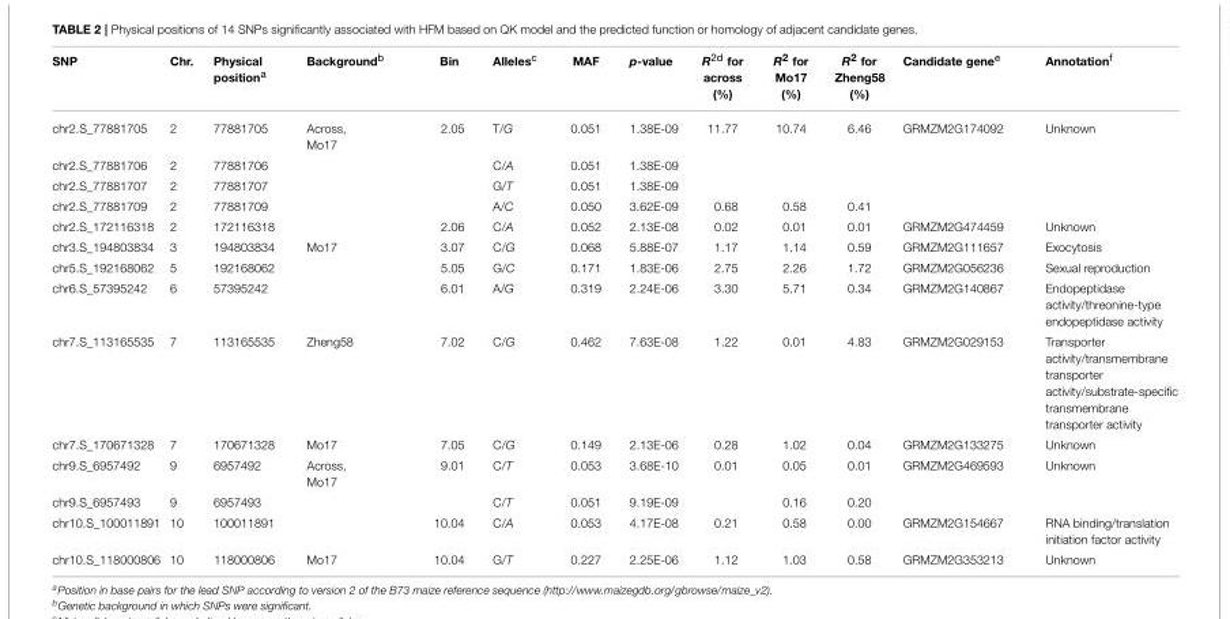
<table><thead><tr><td>SNP</td><td>Chr.</td><td>Physical position<sup>a</sup></td><td>Background<sup>b</sup></td><td>Bin</td><td>Alleles<sup>c</sup></td><td>MAF</td><td>p-value</td><td>R<sup>2d</sup> for across (%)</td><td>R<sup>2</sup> for Mo17 (%)</td><td>R<sup>2</sup> for Zheng58 (%)</td><td>Candidate gene<sup>e</sup></td><td>Annotation<sup>f</sup></td></tr></thead><tbody><tr><td>chr2.S_77881705</td><td>2</td><td>77881705</td><td>Across, Mo17</td><td>2.05</td><td>T/G</td><td>0.051</td><td>1.38E-09</td><td>11.77</td><td>10.74</td><td>6.46</td><td>GRMZM2G174092</td><td>Unknown</td></tr><tr><td>chr2.S_77881706</td><td>2</td><td>77881706</td><td></td><td></td><td>C/A</td><td>0.051</td><td>1.38E-09</td><td></td><td></td><td></td><td></td><td></td></tr><tr><td>chr2.S_77881707</td><td>2</td><td>77881707</td><td></td><td></td><td>G/T</td><td>0.051</td><td>1.38E-09</td><td></td><td></td><td></td><td></td><td></td></tr><tr><td>chr2.S_77881709</td><td>2</td><td>77881709</td><td></td><td></td><td>A/C</td><td>0.050</td><td>3.62E-09</td><td>0.68</td><td>0.58</td><td>0.41</td><td></td><td></td></tr><tr><td>chr2.S_172116318</td><td>2</td><td>172116318</td><td></td><td>2.06</td><td>C/A</td><td>0.052</td><td>2.13E-08</td><td>0.02</td><td>0.01</td><td>0.01</td><td>GRMZM2G474459</td><td>Unknown</td></tr><tr><td>chr3.S_194803834</td><td>3</td><td>194803834</td><td>Mo17</td><td>3.07</td><td>C/G</td><td>0.068</td><td>5.88E-07</td><td>1.17</td><td>1.14</td><td>0.59</td><td>GRMZM2G111657</td><td>Exocytosis</td></tr><tr><td>chr5.S_192168062</td><td>5</td><td>192168062</td><td></td><td>5.05</td><td>G/C</td><td>0.171</td><td>1.83E-06</td><td>2.75</td><td>2.26</td><td>1.72</td><td>GRMZM2G056236</td><td>Sexual reproduction</td></tr><tr><td>chr6.S_57395242</td><td>6</td><td>57395242</td><td></td><td>6.01</td><td>A/G</td><td>0.319</td><td>2.24E-06</td><td>3.30</td><td>5.71</td><td>0.34</td><td>GRMZM2G140867</td><td>Endopeptidase activity/threonine-type endopeptidase activity</td></tr><tr><td>chr7.S_113165535</td><td>7</td><td>113165535</td><td>Zheng58</td><td>7.02</td><td>C/G</td><td>0.462</td><td>7.63E-08</td><td>1.22</td><td>0.01</td><td>4.83</td><td>GRMZM2G029153</td><td>Transporter activity/transmembrane transporter activity/substrate-specific transmembrane transporter activity</td></tr><tr><td>chr7.S_170671328</td><td>7</td><td>170671328</td><td>Mo17</td><td>7.05</td><td>C/G</td><td>0.149</td><td>2.13E-06</td><td>0.28</td><td>1.02</td><td>0.04</td><td>GRMZM2G133275</td><td>Unknown</td></tr><tr><td>chr9.S_6957492</td><td>9</td><td>6957492</td><td>Across, Mo17</td><td>9.01</td><td>C/T</td><td>0.053</td><td>3.68E-10</td><td>0.01</td><td>0.05</td><td>0.01</td><td>GRMZM2G469593</td><td>Unknown</td></tr><tr><td>chr9.S_6957493</td><td>9</td><td>6957493</td><td></td><td></td><td>C/T</td><td>0.051</td><td>9.19E-09</td><td></td><td>0.16</td><td>0.20</td><td></td><td></td></tr><tr><td>chr10.S_100011891</td><td>10</td><td>100011891</td><td></td><td>10.04</td><td>C/A</td><td>0.053</td><td>4.17E-08</td><td>0.21</td><td>0.58</td><td>0.00</td><td>GRMZM2G154667</td><td>RNA binding/translation initiation factor activity</td></tr><tr><td>chr10.S_118000806</td><td>10</td><td>118000806</td><td>Mo17</td><td>10.04</td><td>G/T</td><td>0.227</td><td>2.25E-06</td><td>1.12</td><td>1.03</td><td>0.58</td><td>GRMZM2G353213</td><td>Unknown</td></tr></tbody></table>